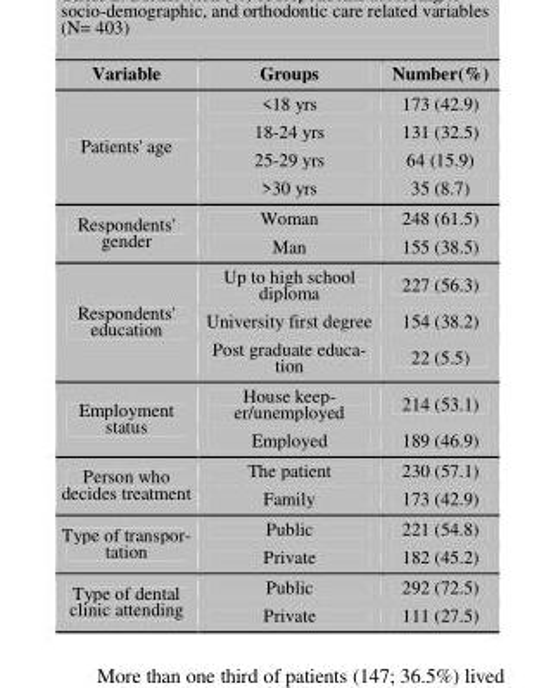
<table><thead><tr><td>Variable</td><td>Groups</td><td>Number (%)</td></tr></thead><tbody><tr><td rowspan="4">Patients&#x27; age</td><td>&lt;18 yrs</td><td>173 (42.9)</td></tr><tr><td>18-24 yrs</td><td>131 (32.5)</td></tr><tr><td>25-29 yrs</td><td>64 (15.9)</td></tr><tr><td>&gt;30 yrs</td><td>35 (8.7)</td></tr><tr><td rowspan="2">Respondents&#x27; gender</td><td>Woman</td><td>248 (61.5)</td></tr><tr><td>Man</td><td>155 (38.5)</td></tr><tr><td rowspan="3">Respondents&#x27; education</td><td>Up to high school diploma</td><td>227 (56.3)</td></tr><tr><td>University first degree</td><td>154 (38.2)</td></tr><tr><td>Post graduate educa- tion</td><td>22 (5.5)</td></tr><tr><td rowspan="2">Employment status</td><td>House keep- er/unemployed</td><td>214 (53.1)</td></tr><tr><td>Employed</td><td>189 (46.9)</td></tr><tr><td rowspan="2">Person who decides treatment</td><td>The patient</td><td>230 (57.1)</td></tr><tr><td>Family</td><td>173 (42.9)</td></tr><tr><td rowspan="2">Type of transpor- tation</td><td>Public</td><td>221 (54.8)</td></tr><tr><td>Private</td><td>182 (45.2)</td></tr><tr><td rowspan="2">Type of dental clinic attending</td><td>Public</td><td>292 (72.5)</td></tr><tr><td>Private</td><td>111 (27.5)</td></tr></tbody></table>